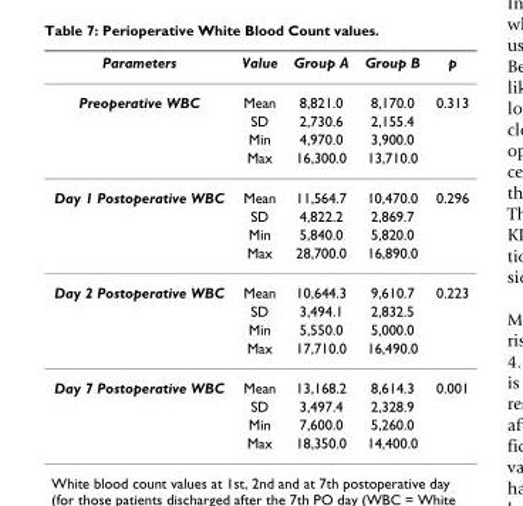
<table><thead><tr><td>Parameters</td><td>Value</td><td>Group A</td><td>Group B</td><td>p</td></tr></thead><tbody><tr><td rowspan="4">Preoperative WBC</td><td>Mean</td><td>8,821.0</td><td>8,170.0</td><td>0.313</td></tr><tr><td>SD</td><td>2,730.6</td><td>2,155.4</td><td></td></tr><tr><td>Min</td><td>4,970.0</td><td>3,900.0</td><td></td></tr><tr><td>Max</td><td>16,300.0</td><td>13,710.0</td><td></td></tr><tr><td rowspan="4">Day 1 Postoperative WBC</td><td>Mean</td><td>11,564.7</td><td>10,470.0</td><td>0.296</td></tr><tr><td>SD</td><td>4,822.2</td><td>2,869.7</td><td></td></tr><tr><td>Min</td><td>5,840.0</td><td>5,820.0</td><td></td></tr><tr><td>Max</td><td>28,700.0</td><td>16,890.0</td><td></td></tr><tr><td rowspan="4">Day 2 Postoperative WBC</td><td>Mean</td><td>10,644.3</td><td>9,610.7</td><td>0.223</td></tr><tr><td>SD</td><td>3,494.1</td><td>2,832.5</td><td></td></tr><tr><td>Min</td><td>5,550.0</td><td>5,000.0</td><td></td></tr><tr><td>Max</td><td>17,710.0</td><td>16,490.0</td><td></td></tr><tr><td rowspan="4">Day 7 Postoperative WBC</td><td>Mean</td><td>13,168.2</td><td>8,614.3</td><td>0.001</td></tr><tr><td>SD</td><td>3,497.4</td><td>2,328.9</td><td></td></tr><tr><td>Min</td><td>7,600.0</td><td>5,260.0</td><td></td></tr><tr><td>Max</td><td>18,350.0</td><td>14,400.0</td><td></td></tr></tbody></table>